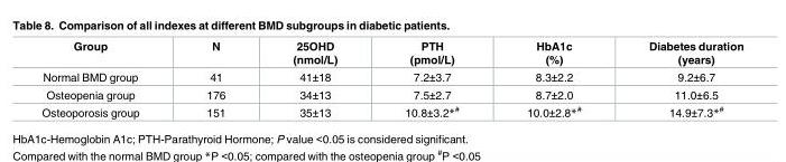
<table><thead><tr><td>Group</td><td>N</td><td>25OHD (nmol/L)</td><td>PTH (pmol/L)</td><td>HbA1c (%)</td><td>Diabetes duration (years)</td></tr></thead><tbody><tr><td>Normal BMD group</td><td>41</td><td>41±18</td><td>7.2±3.7</td><td>8.3±2.2</td><td>9.2±6.7</td></tr><tr><td>Osteopenia group</td><td>176</td><td>34±13</td><td>7.5±2.7</td><td>8.7±2.0</td><td>11.0±6.5</td></tr><tr><td>Osteoporosis group</td><td>151</td><td>35±13</td><td>10.8±3.2*<sup>#</sup></td><td>10.0±2.8*<sup>#</sup></td><td>14.9±7.3*<sup>#</sup></td></tr></tbody></table>